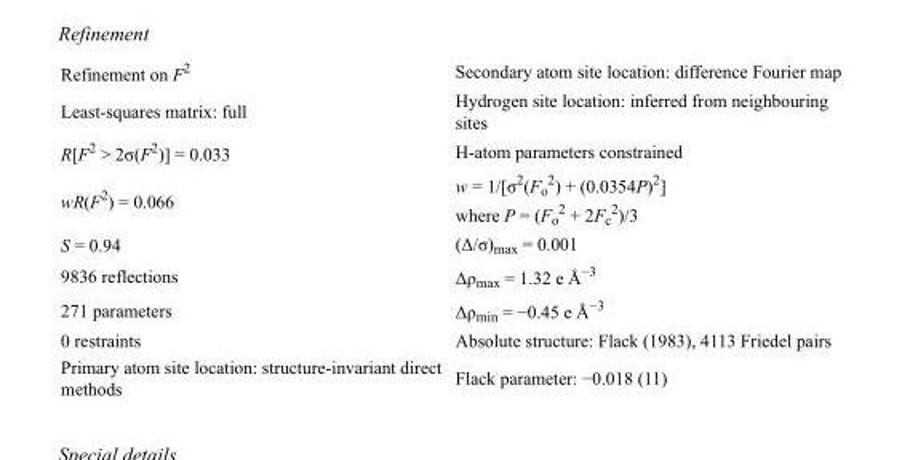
<table><tbody><tr><td>Refinement on F<sup>2</sup></td><td>Secondary atom site location: difference Fourier map</td></tr><tr><td>Least-squares matrix: full</td><td>Hydrogen site location: inferred from neighbouring sites</td></tr><tr><td>R[F<sup>2</sup> &gt; 2σ(F<sup>2</sup>)] = 0.033</td><td>H-atom parameters constrained</td></tr><tr><td>wR(F<sup>2</sup>) = 0.066</td><td>w = 1/[σ<sup>2</sup>(F<sub>o</sub> <sup>2</sup>) + (0.0354P)<sup>2</sup>] where P = (F<sub>o</sub> <sup>2</sup> + 2F<sub>c</sub> <sup>2</sup>)/3</td></tr><tr><td>S = 0.94</td><td>(Δ/σ)<sub>max</sub> = 0.001</td></tr><tr><td>9836 reflections</td><td>Δρ<sub>max</sub> = 1.32 e Å<sup>−3</sup></td></tr><tr><td>271 parameters</td><td>Δρ<sub>min</sub> = −0.45 e Å<sup>−3</sup></td></tr><tr><td>0 restraints</td><td>Absolute structure: Flack (1983), 4113 Friedel pairs</td></tr><tr><td>Primary atom site location: structure-invariant direct methods</td><td>Flack parameter: −0.018 (11)</td></tr></tbody></table>